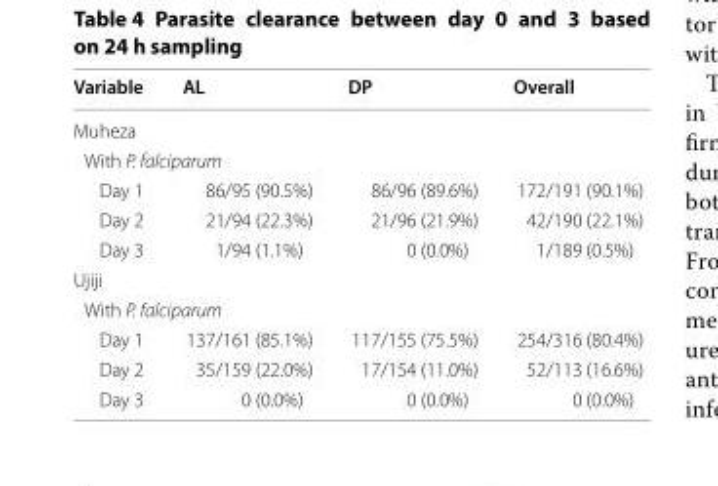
<table><thead><tr><td>Variable</td><td>AL</td><td>DP</td><td>Overall</td></tr></thead><tbody><tr><td colspan="4">Muheza</td></tr><tr><td colspan="4">With P. falciparum</td></tr><tr><td>Day 1</td><td>86/95 (90.5%)</td><td>86/96 (89.6%)</td><td>172/191 (90.1%)</td></tr><tr><td>Day 2</td><td>21/94 (22.3%)</td><td>21/96 (21.9%)</td><td>42/190 (22.1%)</td></tr><tr><td>Day 3</td><td>1/94 (1.1%)</td><td>0 (0.0%)</td><td>1/189 (0.5%)</td></tr><tr><td colspan="4">Ujiji</td></tr><tr><td colspan="4">With P. falciparum</td></tr><tr><td>Day 1</td><td>137/161 (85.1%)</td><td>117/155 (75.5%)</td><td>254/316 (80.4%)</td></tr><tr><td>Day 2</td><td>35/159 (22.0%)</td><td>17/154 (11.0%)</td><td>52/113 (16.6%)</td></tr><tr><td>Day 3</td><td>0 (0.0%)</td><td>0 (0.0%)</td><td>0 (0.0%)</td></tr></tbody></table>